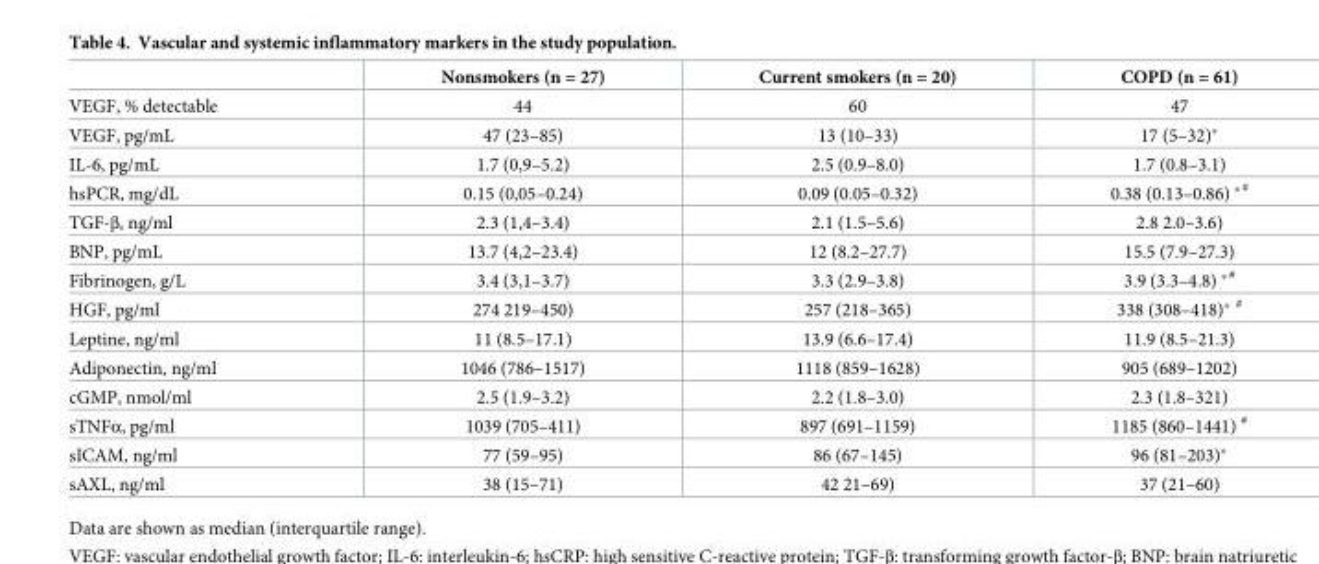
<table><thead><tr><td></td><td>Nonsmokers (n = 27)</td><td>Current smokers (n = 20)</td><td>COPD (n = 61)</td></tr></thead><tbody><tr><td>VEGF, % detectable</td><td>44</td><td>60</td><td>47</td></tr><tr><td>VEGF, pg/mL</td><td>47 (23–85)</td><td>13 (10–33)</td><td>17 (5–32)*</td></tr><tr><td>IL-6, pg/mL</td><td>1.7 (0,9–5.2)</td><td>2.5 (0.9–8.0)</td><td>1.7 (0.8–3.1)</td></tr><tr><td>hsPCR, mg/dL</td><td>0.15 (0,05–0.24)</td><td>0.09 (0.05–0.32)</td><td>0.38 (0.13–0.86) *<sup>#</sup></td></tr><tr><td>TGF-β, ng/ml</td><td>2.3 (1,4–3.4)</td><td>2.1 (1.5–5.6)</td><td>2.8 2.0–3.6)</td></tr><tr><td>BNP, pg/mL</td><td>13.7 (4,2–23.4)</td><td>12 (8.2–27.7)</td><td>15.5 (7.9–27.3)</td></tr><tr><td>Fibrinogen, g/L</td><td>3.4 (3,1–3.7)</td><td>3.3 (2.9–3.8)</td><td>3.9 (3.3–4.8) *<sup>#</sup></td></tr><tr><td>HGF, pg/ml</td><td>274 219–450)</td><td>257 (218–365)</td><td>338 (308–418)* <sup>#</sup></td></tr><tr><td>Leptine, ng/ml</td><td>11 (8.5–17.1)</td><td>13.9 (6.6–17.4)</td><td>11.9 (8.5–21.3)</td></tr><tr><td>Adiponectin, ng/ml</td><td>1046 (786–1517)</td><td>1118 (859–1628)</td><td>905 (689–1202)</td></tr><tr><td>cGMP, nmol/ml</td><td>2.5 (1.9–3.2)</td><td>2.2 (1.8–3.0)</td><td>2.3 (1.8–321)</td></tr><tr><td>sTNFα, pg/ml</td><td>1039 (705–411)</td><td>897 (691–1159)</td><td>1185 (860–1441) <sup>#</sup></td></tr><tr><td>sICAM, ng/ml</td><td>77 (59–95)</td><td>86 (67–145)</td><td>96 (81–203)*</td></tr><tr><td>sAXL, ng/ml</td><td>38 (15–71)</td><td>42 21–69)</td><td>37 (21–60)</td></tr></tbody></table>